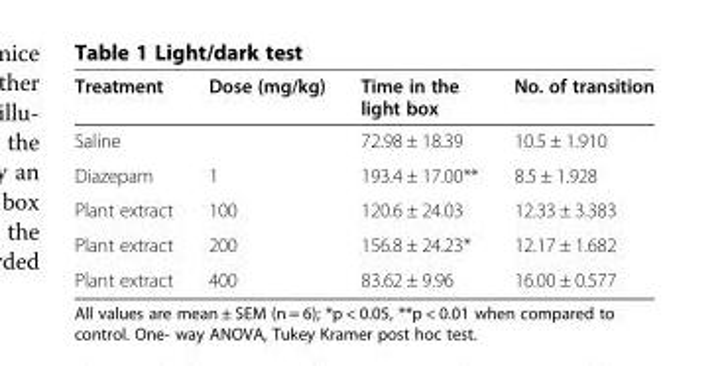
<table><thead><tr><td>Treatment</td><td>Dose (mg/kg)</td><td>Time in the light box</td><td>No. of transition</td></tr></thead><tbody><tr><td>Saline</td><td></td><td>72.98 ± 18.39</td><td>10.5 ± 1.910</td></tr><tr><td>Diazepam</td><td>1</td><td>193.4 ± 17.00**</td><td>8.5 ± 1.928</td></tr><tr><td>Plant extract</td><td>100</td><td>120.6 ± 24.03</td><td>12.33 ± 3.383</td></tr><tr><td>Plant extract</td><td>200</td><td>156.8 ± 24.23*</td><td>12.17 ± 1.682</td></tr><tr><td>Plant extract</td><td>400</td><td>83.62 ± 9.96</td><td>16.00 ± 0.577</td></tr></tbody></table>